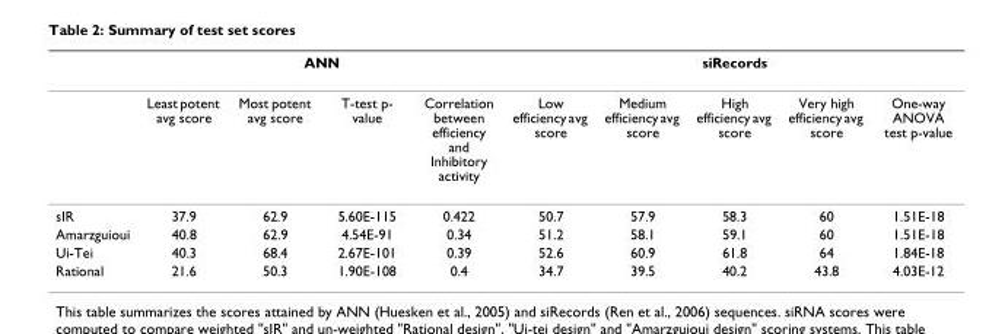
<table><thead><tr><td rowspan="2"></td><td colspan="4">ANN</td><td colspan="5">siRecords</td></tr><tr><td>Least potent avg score</td><td>Most potent avg score</td><td>T-test p- value</td><td>Correlation between efficiency and Inhibitory activity</td><td>Low efficiency avg score</td><td>Medium efficiency avg score</td><td>High efficiency avg score</td><td>Very high efficiency avg score</td><td>One-way ANOVA test p-value</td></tr></thead><tbody><tr><td>sIR</td><td>37.9</td><td>62.9</td><td>5.60E-115</td><td>0.422</td><td>50.7</td><td>57.9</td><td>58.3</td><td>60</td><td>1.51E-18</td></tr><tr><td>Amarzguioui</td><td>40.8</td><td>62.9</td><td>4.54E-91</td><td>0.34</td><td>51.2</td><td>58.1</td><td>59.1</td><td>60</td><td>1.51E-18</td></tr><tr><td>Ui-Tei</td><td>40.3</td><td>68.4</td><td>2.67E-101</td><td>0.39</td><td>52.6</td><td>60.9</td><td>61.8</td><td>64</td><td>1.84E-18</td></tr><tr><td>Rational</td><td>21.6</td><td>50.3</td><td>1.90E-108</td><td>0.4</td><td>34.7</td><td>39.5</td><td>40.2</td><td>43.8</td><td>4.03E-12</td></tr></tbody></table>